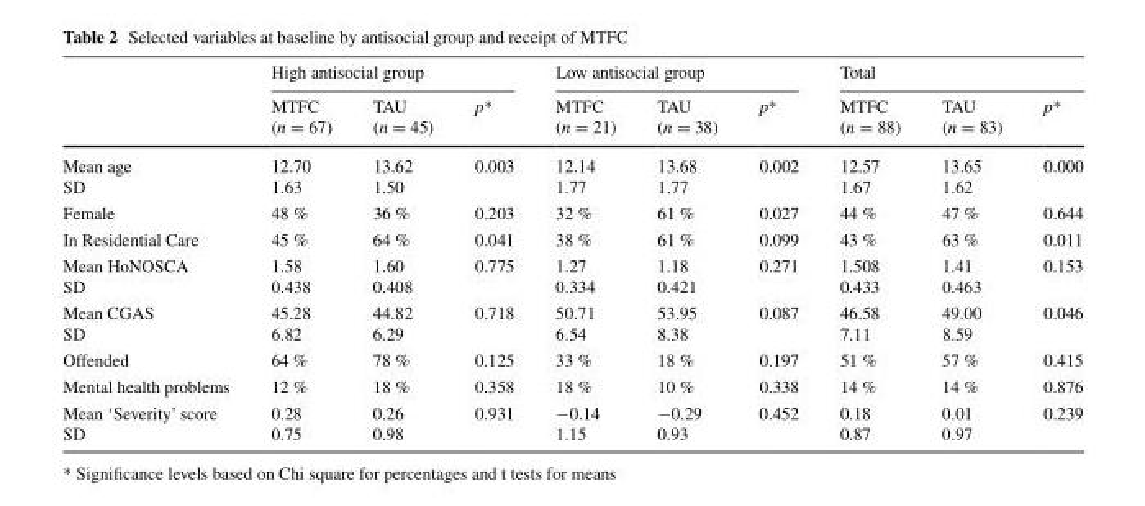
<table><thead><tr><td rowspan="2"></td><td colspan="3">High antisocial group</td><td colspan="3">Low antisocial group</td><td colspan="3">Total</td></tr><tr><td>MTFC (n = 67)</td><td>TAU (n = 45)</td><td>p*</td><td>MTFC (n = 21)</td><td>TAU (n = 38)</td><td>p*</td><td>MTFC (n = 88)</td><td>TAU (n = 83)</td><td>p*</td></tr></thead><tbody><tr><td>Mean age SD</td><td>12.70 1.63</td><td>13.62 1.50</td><td>0.003</td><td>12.14 1.77</td><td>13.68 1.77</td><td>0.002</td><td>12.57 1.67</td><td>13.65 1.62</td><td>0.000</td></tr><tr><td>Female</td><td>48 %</td><td>36 %</td><td>0.203</td><td>32 %</td><td>61 %</td><td>0.027</td><td>44 %</td><td>47 %</td><td>0.644</td></tr><tr><td>In Residential Care</td><td>45 %</td><td>64 %</td><td>0.041</td><td>38 %</td><td>61 %</td><td>0.099</td><td>43 %</td><td>63 %</td><td>0.011</td></tr><tr><td>Mean HoNOSCA SD</td><td>1.58 0.438</td><td>1.60 0.408</td><td>0.775</td><td>1.27 0.334</td><td>1.18 0.421</td><td>0.271</td><td>1.508 0.433</td><td>1.41 0.463</td><td>0.153</td></tr><tr><td>Mean CGAS SD</td><td>45.28 6.82</td><td>44.82 6.29</td><td>0.718</td><td>50.71 6.54</td><td>53.95 8.38</td><td>0.087</td><td>46.58 7.11</td><td>49.00 8.59</td><td>0.046</td></tr><tr><td>Offended</td><td>64 %</td><td>78 %</td><td>0.125</td><td>33 %</td><td>18 %</td><td>0.197</td><td>51 %</td><td>57 %</td><td>0.415</td></tr><tr><td>Mental health problems</td><td>12 %</td><td>18 %</td><td>0.358</td><td>18 %</td><td>10 %</td><td>0.338</td><td>14 %</td><td>14 %</td><td>0.876</td></tr><tr><td>Mean ‘Severity’ score SD</td><td>0.28 0.75</td><td>0.26 0.98</td><td>0.931</td><td>−0.14 1.15</td><td>−0.29 0.93</td><td>0.452</td><td>0.18 0.87</td><td>0.01 0.97</td><td>0.239</td></tr></tbody></table>